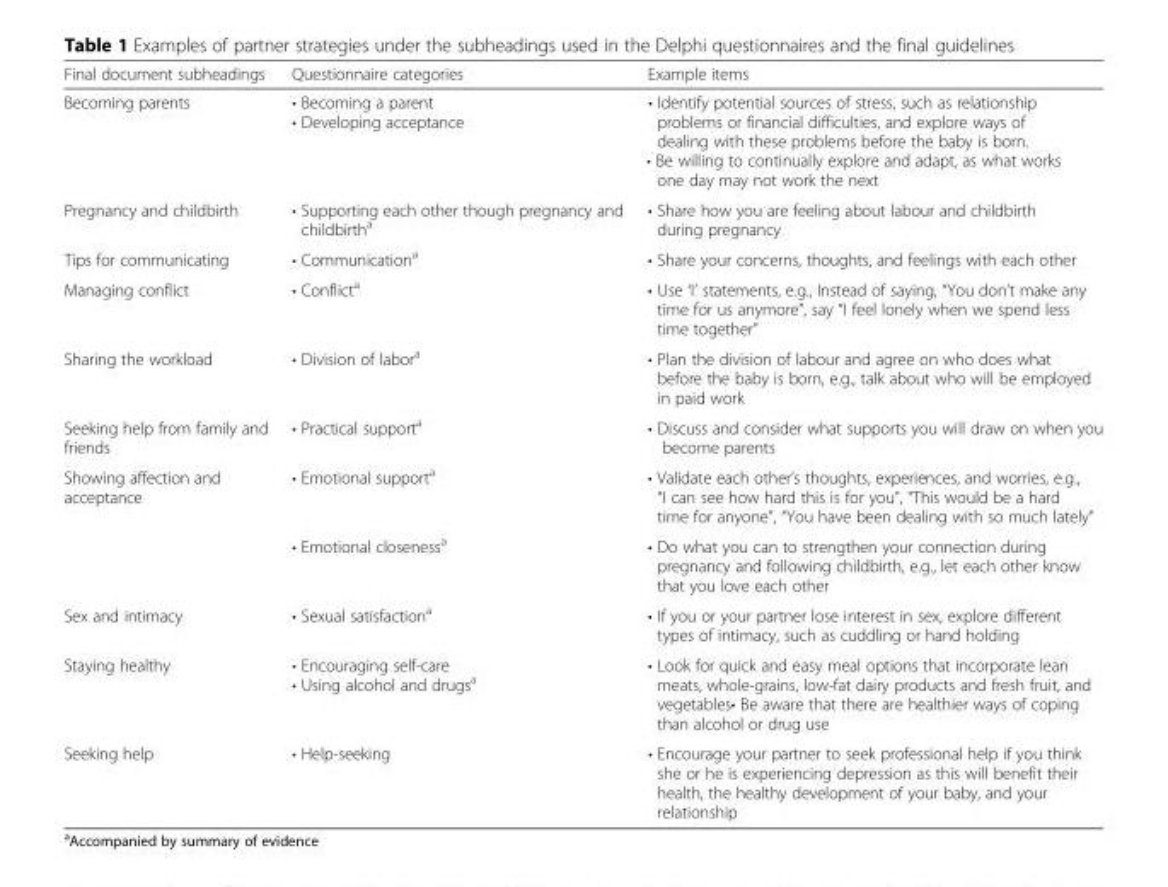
<table><thead><tr><td>Final document subheadings</td><td>Questionnaire categories</td><td>Example items</td></tr></thead><tbody><tr><td>Becoming parents</td><td>• Becoming a parent • Developing acceptance</td><td>• Identify potential sources of stress, such as relationship problems or financial difficulties, and explore ways of dealing with these problems before the baby is born. • Be willing to continually explore and adapt, as what works one day may not work the next</td></tr><tr><td>Pregnancy and childbirth</td><td>• Supporting each other though pregnancy and childbirth<sup>a</sup></td><td>• Share how you are feeling about labour and childbirth during pregnancy</td></tr><tr><td>Tips for communicating</td><td>• Communication<sup>a</sup></td><td>• Share your concerns, thoughts, and feelings with each other</td></tr><tr><td>Managing conflict</td><td>• Conflict<sup>a</sup></td><td>• Use ‘I’ statements, e.g., Instead of saying, “You don’t make any time for us anymore”, say “I feel lonely when we spend less time together”</td></tr><tr><td>Sharing the workload</td><td>• Division of labor<sup>a</sup></td><td>• Plan the division of labour and agree on who does what before the baby is born, e.g., talk about who will be employed in paid work</td></tr><tr><td>Seeking help from family and friends</td><td>• Practical support<sup>a</sup></td><td>• Discuss and consider what supports you will draw on when you become parents</td></tr><tr><td rowspan="2">Showing affection and acceptance</td><td>• Emotional support<sup>a</sup></td><td>• Validate each other’s thoughts, experiences, and worries, e.g., “I can see how hard this is for you”, “This would be a hard time for anyone”, “You have been dealing with so much lately”</td></tr><tr><td>• Emotional closeness<sup>a</sup></td><td>• Do what you can to strengthen your connection during pregnancy and following childbirth, e.g., let each other know that you love each other</td></tr><tr><td>Sex and intimacy</td><td>• Sexual satisfaction<sup>a</sup></td><td>• If you or your partner lose interest in sex, explore different types of intimacy, such as cuddling or hand holding</td></tr><tr><td>Staying healthy</td><td>• Encouraging self-care • Using alcohol and drugs<sup>a</sup></td><td>• Look for quick and easy meal options that incorporate lean meats, whole-grains, low-fat dairy products and fresh fruit, and vegetables• Be aware that there are healthier ways of coping than alcohol or drug use</td></tr><tr><td>Seeking help</td><td>• Help-seeking</td><td>• Encourage your partner to seek professional help if you think she or he is experiencing depression as this will benefit their health, the healthy development of your baby, and your relationship</td></tr></tbody></table>